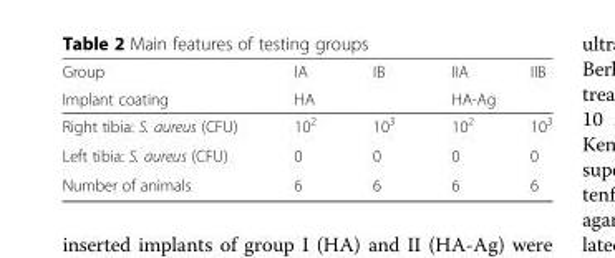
<table><thead><tr><td rowspan="2">Group Implant coating</td><td>IA</td><td>IB</td><td>IIA</td><td>IIB</td></tr><tr><td colspan="2">HA</td><td colspan="2">HA-Ag</td></tr></thead><tbody><tr><td>Right tibia: S. aureus (CFU)</td><td>10<sup>2</sup></td><td>10<sup>3</sup></td><td>10<sup>2</sup></td><td>10<sup>3</sup></td></tr><tr><td>Left tibia: S. aureus (CFU)</td><td>0</td><td>0</td><td>0</td><td>0</td></tr><tr><td>Number of animals</td><td>6</td><td>6</td><td>6</td><td>6</td></tr></tbody></table>